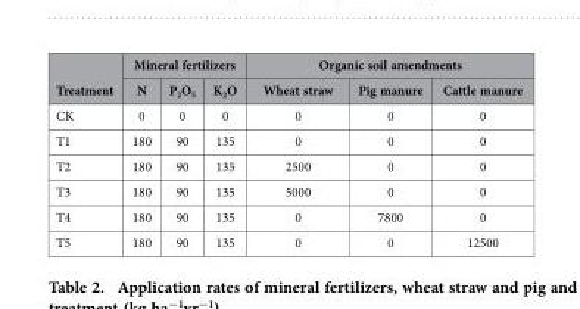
<table><thead><tr><td rowspan="2">Treatment</td><td colspan="3">Mineral fertilizers</td><td colspan="3">Organic soil amendments</td></tr><tr><td>N</td><td>P<sub>2</sub>O<sub>5</sub></td><td>K<sub>2</sub>O</td><td>Wheat straw</td><td>Pig manure</td><td>Cattle manure</td></tr></thead><tbody><tr><td>CK</td><td>0</td><td>0</td><td>0</td><td>0</td><td>0</td><td>0</td></tr><tr><td>T1</td><td>180</td><td>90</td><td>135</td><td>0</td><td>0</td><td>0</td></tr><tr><td>T2</td><td>180</td><td>90</td><td>135</td><td>2500</td><td>0</td><td>0</td></tr><tr><td>T3</td><td>180</td><td>90</td><td>135</td><td>5000</td><td>0</td><td>0</td></tr><tr><td>T4</td><td>180</td><td>90</td><td>135</td><td>0</td><td>7800</td><td>0</td></tr><tr><td>T5</td><td>180</td><td>90</td><td>135</td><td>0</td><td>0</td><td>12500</td></tr></tbody></table>